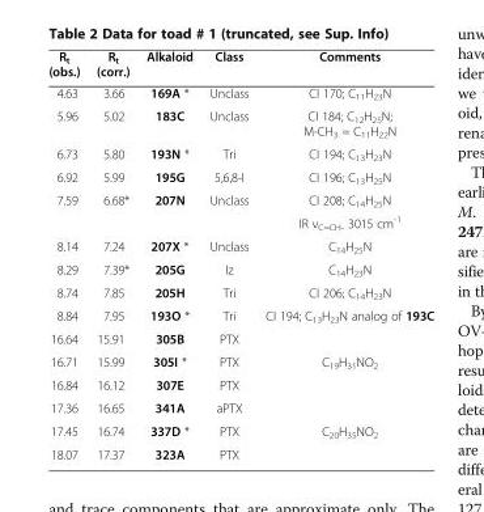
<table><thead><tr><td>R<sub>t</sub> (obs.)</td><td>R<sub>t</sub> (corr.)</td><td>Alkaloid</td><td>Class</td><td>Comments</td></tr></thead><tbody><tr><td>4.63</td><td>3.66</td><td>169A *</td><td>Unclass</td><td>CI 170; C<sub>11</sub>H<sub>23</sub>N</td></tr><tr><td>5.96</td><td>5.02</td><td>183C</td><td>Unclass</td><td>CI 184; C<sub>12</sub>H<sub>25</sub>N; M-CH<sub>3</sub> = C<sub>11</sub>H<sub>22</sub>N</td></tr><tr><td>6.73</td><td>5.80</td><td>193N *</td><td>Tri</td><td>CI 194; C<sub>13</sub>H<sub>23</sub>N</td></tr><tr><td>6.92</td><td>5.99</td><td>195G</td><td>5,6,8-I</td><td>CI 196; C<sub>13</sub>H<sub>25</sub>N</td></tr><tr><td rowspan="2">7.59</td><td rowspan="2">6.68*</td><td rowspan="2">207N</td><td rowspan="2">Unclass</td><td>CI 208; C<sub>14</sub>H<sub>25</sub>N</td></tr><tr><td>IR ν<sub>C=CH-</sub> 3015 cm<sup>-1</sup></td></tr><tr><td>8.14</td><td>7.24</td><td>207X *</td><td>Unclass</td><td>C<sub>14</sub>H<sub>25</sub>N</td></tr><tr><td>8.29</td><td>7.39*</td><td>205G</td><td>Iz</td><td>C<sub>14</sub>H<sub>23</sub>N</td></tr><tr><td>8.74</td><td>7.85</td><td>205H</td><td>Tri</td><td>CI 206; C<sub>14</sub>H<sub>23</sub>N</td></tr><tr><td>8.84</td><td>7.95</td><td>193O *</td><td>Tri</td><td>CI 194; C<sub>13</sub>H<sub>23</sub>N analog of 193C</td></tr><tr><td>16.64</td><td>15.91</td><td>305B</td><td>PTX</td><td></td></tr><tr><td>16.71</td><td>15.99</td><td>305I *</td><td>PTX</td><td>C<sub>19</sub>H<sub>31</sub>NO<sub>2</sub></td></tr><tr><td>16.84</td><td>16.12</td><td>307E</td><td>PTX</td><td></td></tr><tr><td>17.36</td><td>16.65</td><td>341A</td><td>aPTX</td><td></td></tr><tr><td>17.45</td><td>16.74</td><td>337D *</td><td>PTX</td><td>C<sub>20</sub>H<sub>35</sub>NO<sub>2</sub></td></tr><tr><td>18.07</td><td>17.37</td><td>323A</td><td>PTX</td><td></td></tr></tbody></table>